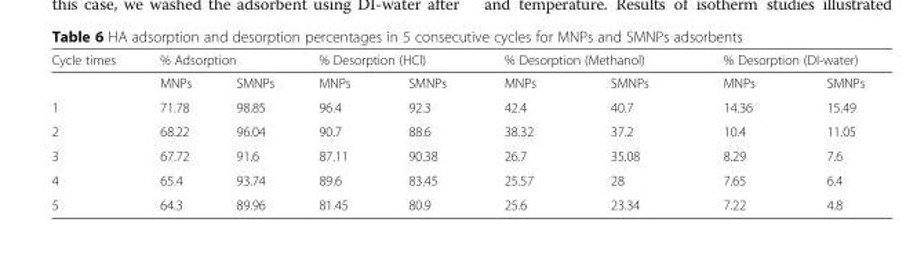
<table><thead><tr><td rowspan="2">Cycle times</td><td colspan="2">% Adsorption</td><td colspan="2">% Desorption (HCl)</td><td colspan="2">% Desorption (Methanol)</td><td colspan="2">% Desorption (DI-water)</td></tr><tr><td>MNPs</td><td>SMNPs</td><td>MNPs</td><td>SMNPs</td><td>MNPs</td><td>SMNPs</td><td>MNPs</td><td>SMNPs</td></tr></thead><tbody><tr><td>1</td><td>71.78</td><td>98.85</td><td>96.4</td><td>92.3</td><td>42.4</td><td>40.7</td><td>14.36</td><td>15.49</td></tr><tr><td>2</td><td>68.22</td><td>96.04</td><td>90.7</td><td>88.6</td><td>38.32</td><td>37.2</td><td>10.4</td><td>11.05</td></tr><tr><td>3</td><td>67.72</td><td>91.6</td><td>87.11</td><td>90.38</td><td>26.7</td><td>35.08</td><td>8.29</td><td>7.6</td></tr><tr><td>4</td><td>65.4</td><td>93.74</td><td>89.6</td><td>83.45</td><td>25.57</td><td>28</td><td>7.65</td><td>6.4</td></tr><tr><td>5</td><td>64.3</td><td>89.96</td><td>81.45</td><td>80.9</td><td>25.6</td><td>23.34</td><td>7.22</td><td>4.8</td></tr></tbody></table>